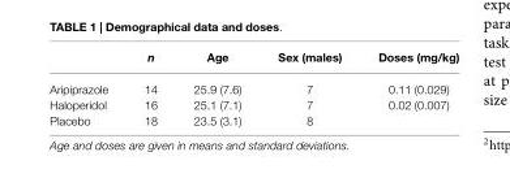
<table><thead><tr><td></td><td>n</td><td>Age</td><td>Sex (males)</td><td>Doses (mg/kg)</td></tr></thead><tbody><tr><td>Aripiprazole</td><td>14</td><td>25.9 (7.6)</td><td>7</td><td>0.11 (0.029)</td></tr><tr><td>Haloperidol</td><td>16</td><td>25.1 (7.1)</td><td>7</td><td>0.02 (0.007)</td></tr><tr><td>Placebo</td><td>18</td><td>23.5 (3.1)</td><td>8</td><td></td></tr></tbody></table>